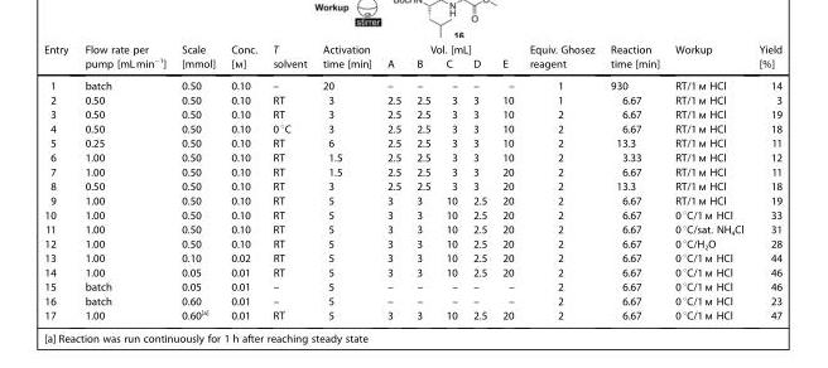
<table><thead><tr><td rowspan="2">Entry</td><td rowspan="2">Flow rate per pump [mLmin<sup>−1</sup>]</td><td rowspan="2">Scale [mmol]</td><td rowspan="2">Conc. [m]</td><td rowspan="2">T solvent</td><td rowspan="2">Activation time [min]</td><td colspan="5">Vol. [mL]</td><td rowspan="2">Equiv. Ghosez reagent</td><td rowspan="2">Reaction time [min]</td><td rowspan="2">Workup</td><td rowspan="2">Yield [%]</td></tr><tr><td>A</td><td>B</td><td>C</td><td>D</td><td>E</td></tr></thead><tbody><tr><td>1</td><td>batch</td><td>0.50</td><td>0.10</td><td>–</td><td>20</td><td>–</td><td>–</td><td>–</td><td>–</td><td>–</td><td>1</td><td>930</td><td>RT/1m HCl</td><td>14</td></tr><tr><td>2</td><td>0.50</td><td>0.50</td><td>0.10</td><td>RT</td><td>3</td><td>2.5</td><td>2.5</td><td>3</td><td>3</td><td>10</td><td>1</td><td>6.67</td><td>RT/1m HCl</td><td>3</td></tr><tr><td>3</td><td>0.50</td><td>0.50</td><td>0.10</td><td>RT</td><td>3</td><td>2.5</td><td>2.5</td><td>3</td><td>3</td><td>10</td><td>2</td><td>6.67</td><td>RT/1m HCl</td><td>19</td></tr><tr><td>4</td><td>0.50</td><td>0.50</td><td>0.10</td><td>0°C</td><td>3</td><td>2.5</td><td>2.5</td><td>3</td><td>3</td><td>10</td><td>2</td><td>6.67</td><td>RT/1m HCl</td><td>18</td></tr><tr><td>5</td><td>0.25</td><td>0.50</td><td>0.10</td><td>RT</td><td>6</td><td>2.5</td><td>2.5</td><td>3</td><td>3</td><td>10</td><td>2</td><td>13.3</td><td>RT/1m HCl</td><td>11</td></tr><tr><td>6</td><td>1.00</td><td>0.50</td><td>0.10</td><td>RT</td><td>1.5</td><td>2.5</td><td>2.5</td><td>3</td><td>3</td><td>10</td><td>2</td><td>3.33</td><td>RT/1m HCl</td><td>12</td></tr><tr><td>7</td><td>1.00</td><td>0.50</td><td>0.10</td><td>RT</td><td>1.5</td><td>2.5</td><td>2.5</td><td>3</td><td>3</td><td>20</td><td>2</td><td>6.67</td><td>RT/1m HCl</td><td>11</td></tr><tr><td>8</td><td>0.50</td><td>0.50</td><td>0.10</td><td>RT</td><td>3</td><td>2.5</td><td>2.5</td><td>3</td><td>3</td><td>20</td><td>2</td><td>13.3</td><td>RT/1m HCl</td><td>18</td></tr><tr><td>9</td><td>1.00</td><td>0.50</td><td>0.10</td><td>RT</td><td>5</td><td>3</td><td>3</td><td>10</td><td>2.5</td><td>20</td><td>2</td><td>6.67</td><td>RT/1m HCl</td><td>19</td></tr><tr><td>10</td><td>1.00</td><td>0.50</td><td>0.10</td><td>RT</td><td>5</td><td>3</td><td>3</td><td>10</td><td>2.5</td><td>20</td><td>2</td><td>6.67</td><td>0°C/1m HCl</td><td>33</td></tr><tr><td>11</td><td>1.00</td><td>0.50</td><td>0.10</td><td>RT</td><td>5</td><td>3</td><td>3</td><td>10</td><td>2.5</td><td>20</td><td>2</td><td>6.67</td><td>0°C/sat. NH<sub>4</sub>Cl</td><td>31</td></tr><tr><td>12</td><td>1.00</td><td>0.50</td><td>0.10</td><td>RT</td><td>5</td><td>3</td><td>3</td><td>10</td><td>2.5</td><td>20</td><td>2</td><td>6.67</td><td>0°C/H<sub>2</sub>O</td><td>28</td></tr><tr><td>13</td><td>1.00</td><td>0.10</td><td>0.02</td><td>RT</td><td>5</td><td>3</td><td>3</td><td>10</td><td>2.5</td><td>20</td><td>2</td><td>6.67</td><td>0°C/1m HCl</td><td>44</td></tr><tr><td>14</td><td>1.00</td><td>0.05</td><td>0.01</td><td>RT</td><td>5</td><td>3</td><td>3</td><td>10</td><td>2.5</td><td>20</td><td>2</td><td>6.67</td><td>0°C/1m HCl</td><td>46</td></tr><tr><td>15</td><td>batch</td><td>0.05</td><td>0.01</td><td>–</td><td>5</td><td>–</td><td>–</td><td>–</td><td>–</td><td>–</td><td>2</td><td>6.67</td><td>0°C/1m HCl</td><td>46</td></tr><tr><td>16</td><td>batch</td><td>0.60</td><td>0.01</td><td>–</td><td>5</td><td>–</td><td>–</td><td>–</td><td>–</td><td>–</td><td>2</td><td>6.67</td><td>0°C/1m HCl</td><td>23</td></tr><tr><td>17</td><td>1.00</td><td>0.60<sup>[a]</sup></td><td>0.01</td><td>RT</td><td>5</td><td>3</td><td>3</td><td>10</td><td>2.5</td><td>20</td><td>2</td><td>6.67</td><td>0°C/1m HCl</td><td>47</td></tr></tbody></table>